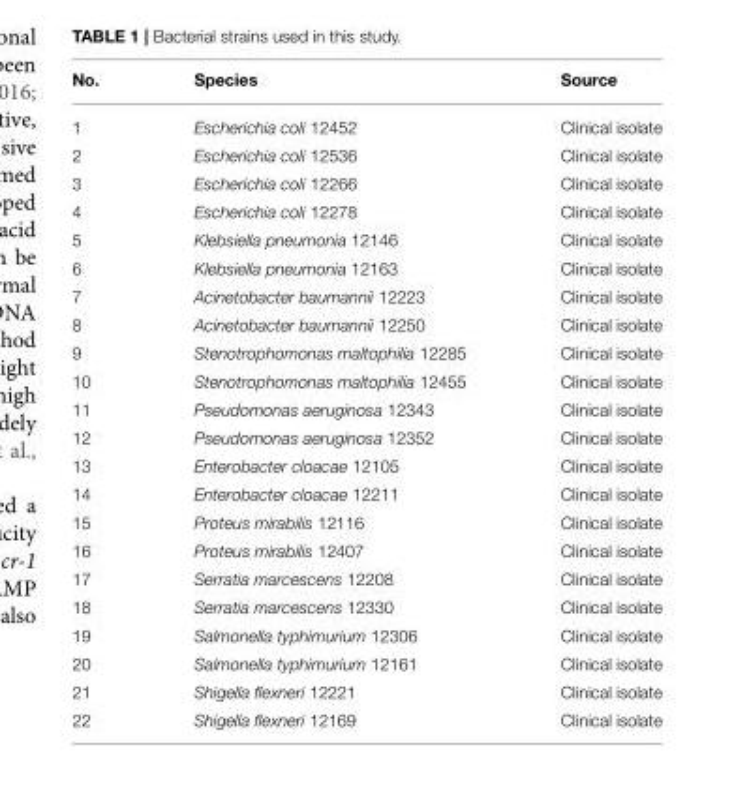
<table><thead><tr><td>No.</td><td>Species</td><td>Source</td></tr></thead><tbody><tr><td>1</td><td>Escherichia coli 12452</td><td>Clinical isolate</td></tr><tr><td>2</td><td>Escherichia coli 12536</td><td>Clinical isolate</td></tr><tr><td>3</td><td>Escherichia coli 12266</td><td>Clinical isolate</td></tr><tr><td>4</td><td>Escherichia coli 12278</td><td>Clinical isolate</td></tr><tr><td>5</td><td>Klebsiella pneumonia 12146</td><td>Clinical isolate</td></tr><tr><td>6</td><td>Klebsiella pneumonia 12163</td><td>Clinical isolate</td></tr><tr><td>7</td><td>Acinetobacter baumannii 12223</td><td>Clinical isolate</td></tr><tr><td>8</td><td>Acinetobacter baumannii 12250</td><td>Clinical isolate</td></tr><tr><td>9</td><td>Stenotrophomonas maltophilia 12285</td><td>Clinical isolate</td></tr><tr><td>10</td><td>Stenotrophomonas maltophilia 12455</td><td>Clinical isolate</td></tr><tr><td>11</td><td>Pseudomonas aeruginosa 12343</td><td>Clinical isolate</td></tr><tr><td>12</td><td>Pseudomonas aeruginosa 12352</td><td>Clinical isolate</td></tr><tr><td>13</td><td>Enterobacter cloacae 12105</td><td>Clinical isolate</td></tr><tr><td>14</td><td>Enterobacter cloacae 12211</td><td>Clinical isolate</td></tr><tr><td>15</td><td>Proteus mirabilis 12116</td><td>Clinical isolate</td></tr><tr><td>16</td><td>Proteus mirabilis 12407</td><td>Clinical isolate</td></tr><tr><td>17</td><td>Serratia marcescens 12208</td><td>Clinical isolate</td></tr><tr><td>18</td><td>Serratia marcescens 12330</td><td>Clinical isolate</td></tr><tr><td>19</td><td>Salmonella typhimurium 12306</td><td>Clinical isolate</td></tr><tr><td>20</td><td>Salmonella typhimurium 12161</td><td>Clinical isolate</td></tr><tr><td>21</td><td>Shigella flexneri 12221</td><td>Clinical isolate</td></tr><tr><td>22</td><td>Shigella flexneri 12169</td><td>Clinical isolate</td></tr></tbody></table>